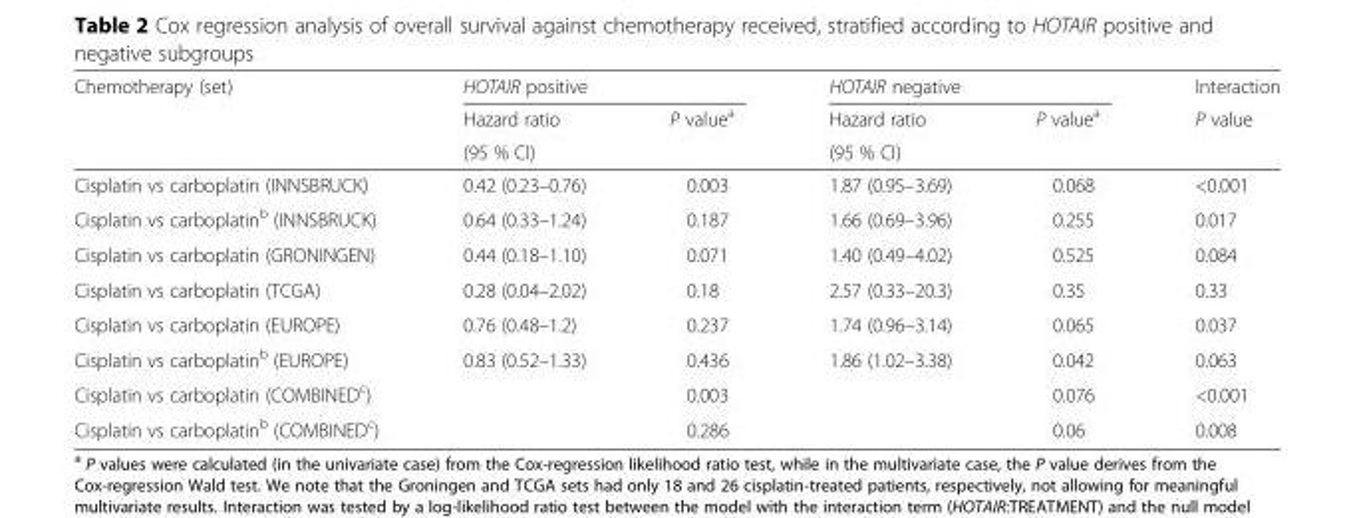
<table><thead><tr><td rowspan="3">Chemotherapy (set)</td><td colspan="2">HOTAIR positive</td><td colspan="2">HOTAIR negative</td><td rowspan="3">Interaction P value</td></tr><tr><td rowspan="2">Hazard ratio (95 % CI)</td><td rowspan="2">P value<sup>a</sup></td><td rowspan="2">Hazard ratio (95 % CI)</td><td rowspan="2">P value<sup>a</sup></td></tr><tr></tr></thead><tbody><tr><td>Cisplatin vs carboplatin (INNSBRUCK)</td><td>0.42 (0.23–0.76)</td><td>0.003</td><td>1.87 (0.95–3.69)</td><td>0.068</td><td>&lt;0.001</td></tr><tr><td>Cisplatin vs carboplatin<sup>b</sup> (INNSBRUCK)</td><td>0.64 (0.33–1.24)</td><td>0.187</td><td>1.66 (0.69–3.96)</td><td>0.255</td><td>0.017</td></tr><tr><td>Cisplatin vs carboplatin (GRONINGEN)</td><td>0.44 (0.18–1.10)</td><td>0.071</td><td>1.40 (0.49–4.02)</td><td>0.525</td><td>0.084</td></tr><tr><td>Cisplatin vs carboplatin (TCGA)</td><td>0.28 (0.04–2.02)</td><td>0.18</td><td>2.57 (0.33–20.3)</td><td>0.35</td><td>0.33</td></tr><tr><td>Cisplatin vs carboplatin (EUROPE)</td><td>0.76 (0.48–1.2)</td><td>0.237</td><td>1.74 (0.96–3.14)</td><td>0.065</td><td>0.037</td></tr><tr><td>Cisplatin vs carboplatin<sup>b</sup> (EUROPE)</td><td>0.83 (0.52–1.33)</td><td>0.436</td><td>1.86 (1.02–3.38)</td><td>0.042</td><td>0.063</td></tr><tr><td>Cisplatin vs carboplatin (COMBINED<sup>c</sup>)</td><td></td><td>0.003</td><td></td><td>0.076</td><td>&lt;0.001</td></tr><tr><td>Cisplatin vs carboplatin<sup>b</sup> (COMBINED<sup>c</sup>)</td><td></td><td>0.286</td><td></td><td>0.06</td><td>0.008</td></tr></tbody></table>